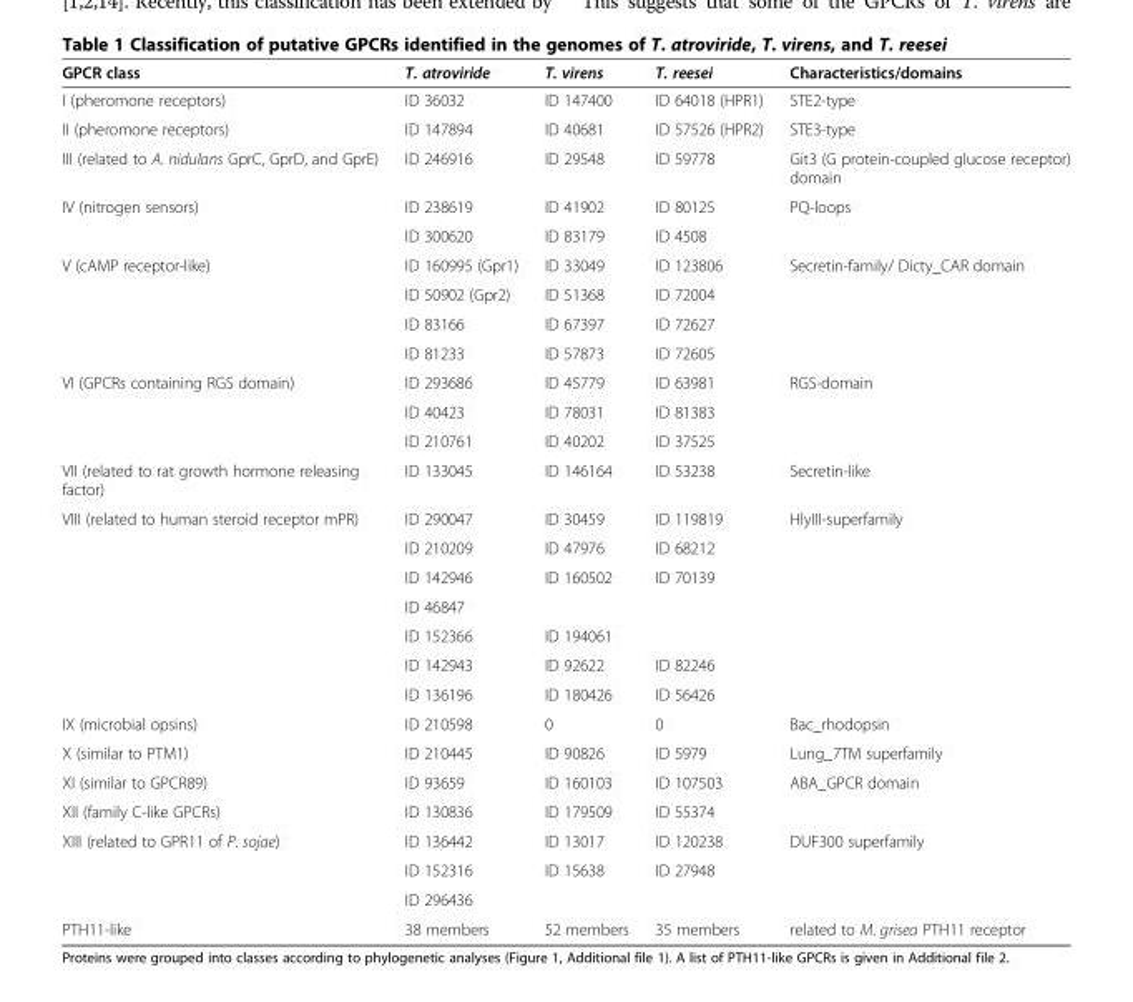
<table><thead><tr><td>GPCR class</td><td>T. atroviride</td><td>T. virens</td><td>T. reesei</td><td>Characteristics/domains</td></tr></thead><tbody><tr><td>I (pheromone receptors)</td><td>ID 36032</td><td>ID 147400</td><td>ID 64018 (HPR1)</td><td>STE2-type</td></tr><tr><td>II (pheromone receptors)</td><td>ID 147894</td><td>ID 40681</td><td>ID 57526 (HPR2)</td><td>STE3-type</td></tr><tr><td>III (related to A. nidulans GprC, GprD, and GprE)</td><td>ID 246916</td><td>ID 29548</td><td>ID 59778</td><td>Git3 (G protein-coupled glucose receptor) domain</td></tr><tr><td rowspan="2">IV (nitrogen sensors)</td><td>ID 238619</td><td>ID 41902</td><td>ID 80125</td><td rowspan="2">PQ-loops</td></tr><tr><td>ID 300620</td><td>ID 83179</td><td>ID 4508</td></tr><tr><td rowspan="4">V (cAMP receptor-like)</td><td>ID 160995 (Gpr1)</td><td>ID 33049</td><td>ID 123806</td><td rowspan="4">Secretin-family/ Dicty_CAR domain</td></tr><tr><td>ID 50902 (Gpr2)</td><td>ID 51368</td><td>ID 72004</td></tr><tr><td>ID 83166</td><td>ID 67397</td><td>ID 72627</td></tr><tr><td>ID 81233</td><td>ID 57873</td><td>ID 72605</td></tr><tr><td rowspan="3">VI (GPCRs containing RGS domain)</td><td>ID 293686</td><td>ID 45779</td><td>ID 63981</td><td rowspan="3">RGS-domain</td></tr><tr><td>ID 40423</td><td>ID 78031</td><td>ID 81383</td></tr><tr><td>ID 210761</td><td>ID 40202</td><td>ID 37525</td></tr><tr><td>VII (related to rat growth hormone releasing factor)</td><td>ID 133045</td><td>ID 146164</td><td>ID 53238</td><td>Secretin-like</td></tr><tr><td rowspan="7">VIII (related to human steroid receptor mPR)</td><td>ID 290047</td><td>ID 30459</td><td>ID 119819</td><td rowspan="7">HlyIII-superfamily</td></tr><tr><td>ID 210209</td><td>ID 47976</td><td>ID 68212</td></tr><tr><td>ID 142946</td><td>ID 160502</td><td>ID 70139</td></tr><tr><td>ID 46847</td><td></td><td></td></tr><tr><td>ID 152366</td><td>ID 194061</td><td></td></tr><tr><td>ID 142943</td><td>ID 92622</td><td>ID 82246</td></tr><tr><td>ID 136196</td><td>ID 180426</td><td>ID 56426</td></tr><tr><td>IX (microbial opsins)</td><td>ID 210598</td><td>0</td><td>0</td><td>Bac_rhodopsin</td></tr><tr><td>X (similar to PTM1)</td><td>ID 210445</td><td>ID 90826</td><td>ID 5979</td><td>Lung_7TM superfamily</td></tr><tr><td>XI (similar to GPCR89)</td><td>ID 93659</td><td>ID 160103</td><td>ID 107503</td><td>ABA_GPCR domain</td></tr><tr><td>XII (family C-like GPCRs)</td><td>ID 130836</td><td>ID 179509</td><td>ID 55374</td><td></td></tr><tr><td rowspan="3">XIII (related to GPR11 of P. sojae)</td><td>ID 136442</td><td>ID 13017</td><td>ID 120238</td><td rowspan="3">DUF300 superfamily</td></tr><tr><td>ID 152316</td><td>ID 15638</td><td>ID 27948</td></tr><tr><td>ID 296436</td><td></td><td></td></tr><tr><td>PTH11-like</td><td>38 members</td><td>52 members</td><td>35 members</td><td>related to M. grisea PTH11 receptor</td></tr></tbody></table>